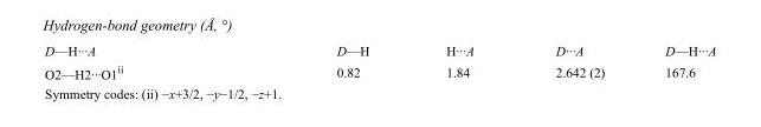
<table><tbody><tr><td>D—H···A</td><td>D—H</td><td>H···A</td><td>D···A</td><td>D—H···A</td></tr><tr><td>O2—H2···O1<sup>ii</sup></td><td>0.82</td><td>1.84</td><td>2.642 (2)</td><td>167.6</td></tr></tbody></table>